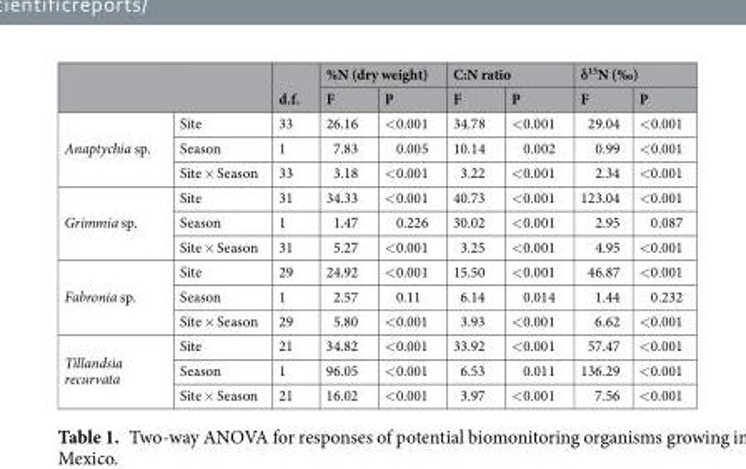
<table><thead><tr><td rowspan="2"></td><td rowspan="2"></td><td rowspan="2">d.f.</td><td colspan="2">%N (dry weight)</td><td colspan="2">C:N ratio</td><td colspan="2">δ<sup>15</sup>N (‰)</td></tr><tr><td>F</td><td>P</td><td>F</td><td>P</td><td>F</td><td>P</td></tr></thead><tbody><tr><td rowspan="3">Anaptychia sp.</td><td>Site</td><td>33</td><td>26.16</td><td>&lt;0.001</td><td>34.78</td><td>&lt;0.001</td><td>29.04</td><td>&lt;0.001</td></tr><tr><td>Season</td><td>1</td><td>7.83</td><td>0.005</td><td>10.14</td><td>0.002</td><td>0.99</td><td>&lt;0.001</td></tr><tr><td>Site × Season</td><td>33</td><td>3.18</td><td>&lt;0.001</td><td>3.22</td><td>&lt;0.001</td><td>2.34</td><td>&lt;0.001</td></tr><tr><td rowspan="3">Grimmia sp.</td><td>Site</td><td>31</td><td>34.33</td><td>&lt;0.001</td><td>40.73</td><td>&lt;0.001</td><td>123.04</td><td>&lt;0.001</td></tr><tr><td>Season</td><td>1</td><td>1.47</td><td>0.226</td><td>30.02</td><td>&lt;0.001</td><td>2.95</td><td>0.087</td></tr><tr><td>Site × Season</td><td>31</td><td>5.27</td><td>&lt;0.001</td><td>3.25</td><td>&lt;0.001</td><td>4.95</td><td>&lt;0.001</td></tr><tr><td rowspan="3">Fabronia sp.</td><td>Site</td><td>29</td><td>24.92</td><td>&lt;0.001</td><td>15.50</td><td>&lt;0.001</td><td>46.87</td><td>&lt;0.001</td></tr><tr><td>Season</td><td>1</td><td>2.57</td><td>0.11</td><td>6.14</td><td>0.014</td><td>1.44</td><td>0.232</td></tr><tr><td>Site × Season</td><td>29</td><td>5.80</td><td>&lt;0.001</td><td>3.93</td><td>&lt;0.001</td><td>6.62</td><td>&lt;0.001</td></tr><tr><td rowspan="3">Tillandsia recurvata</td><td>Site</td><td>21</td><td>34.82</td><td>&lt;0.001</td><td>33.92</td><td>&lt;0.001</td><td>57.47</td><td>&lt;0.001</td></tr><tr><td>Season</td><td>1</td><td>96.05</td><td>&lt;0.001</td><td>6.53</td><td>0.011</td><td>136.29</td><td>&lt;0.001</td></tr><tr><td>Site × Season</td><td>21</td><td>16.02</td><td>&lt;0.001</td><td>3.97</td><td>&lt;0.001</td><td>7.56</td><td>&lt;0.001</td></tr></tbody></table>